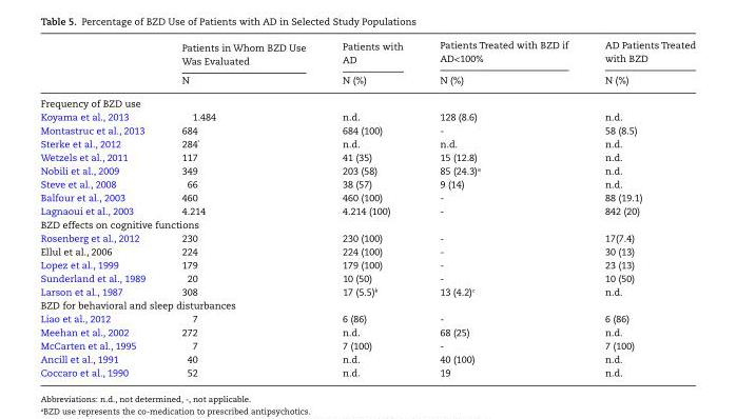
<table><thead><tr><td></td><td>Patients in Whom BZD Use Was Evaluated N</td><td>Patients with AD N (%)</td><td>Patients Treated with BZD if AD&lt;100% N (%)</td><td>AD Patients Treated with BZD N (%)</td></tr></thead><tbody><tr><td colspan="5">Frequency of BZD use</td></tr><tr><td>Koyama et al., 2013</td><td>1.484</td><td>n.d.</td><td>128 (8.6)</td><td>n.d.</td></tr><tr><td>Montastruc et al., 2013</td><td>684</td><td>684 (100)</td><td>-</td><td>58 (8.5)</td></tr><tr><td>Sterke et al., 2012</td><td>284*</td><td>n.d.</td><td>n.d.</td><td>n.d.</td></tr><tr><td>Wetzels et al., 2011</td><td>117</td><td>41 (35)</td><td>15 (12.8)</td><td>n.d.</td></tr><tr><td>Nobili et al., 2009</td><td>349</td><td>203 (58)</td><td>85 (24.3)<sup>a</sup></td><td>n.d.</td></tr><tr><td>Steve et al., 2008</td><td>66</td><td>38 (57)</td><td>9 (14)</td><td>n.d.</td></tr><tr><td>Balfour et al., 2003</td><td>460</td><td>460 (100)</td><td>-</td><td>88 (19.1)</td></tr><tr><td>Lagnaoui et al., 2003</td><td>4.214</td><td>4.214 (100)</td><td>-</td><td>842 (20)</td></tr><tr><td colspan="5">BZD effects on cognitive functions</td></tr><tr><td>Rosenberg et al., 2012</td><td>230</td><td>230 (100)</td><td>-</td><td>17(7.4)</td></tr><tr><td>Ellul et al., 2006</td><td>224</td><td>224 (100)</td><td>-</td><td>30 (13)</td></tr><tr><td>Lopez et al., 1999</td><td>179</td><td>179 (100)</td><td>-</td><td>23 (13)</td></tr><tr><td>Sunderland et al., 1989</td><td>20</td><td>10 (50)</td><td>-</td><td>10 (50)</td></tr><tr><td>Larson et al., 1987</td><td>308</td><td>17 (5.5)<sup>b</sup></td><td>13 (4.2)<sup>c</sup></td><td>n.d.</td></tr><tr><td colspan="5">BZD for behavioral and sleep disturbances</td></tr><tr><td>Liao et al., 2012</td><td>7</td><td>6 (86)</td><td>-</td><td>6 (86)</td></tr><tr><td>Meehan et al., 2002</td><td>272</td><td>n.d.</td><td>68 (25)</td><td>n.d.</td></tr><tr><td>McCarten et al., 1995</td><td>7</td><td>7 (100)</td><td>-</td><td>7 (100)</td></tr><tr><td>Ancill et al., 1991</td><td>40</td><td>n.d.</td><td>40 (100)</td><td>n.d.</td></tr><tr><td>Coccaro et al., 1990</td><td>52</td><td>n.d.</td><td>19</td><td>n.d.</td></tr></tbody></table>